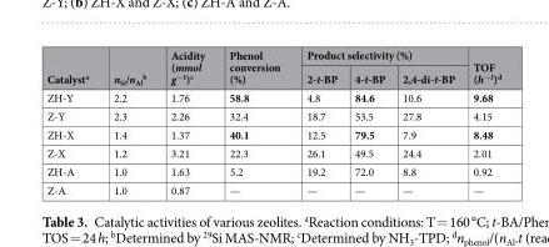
<table><thead><tr><td rowspan="2">Catalyst<sup>a</sup></td><td rowspan="2">n<sub>Si</sub>/n<sub>Al</sub> <sup>b</sup></td><td rowspan="2">Acidity (mmol g<sup>−1</sup>)<sup>c</sup></td><td rowspan="2">Phenol conversion (%)</td><td colspan="3">Product selectivity (%)</td><td rowspan="2">TOF (h<sup>−1</sup>)<sup>d</sup></td></tr><tr><td>2-t-BP</td><td>4-t-BP</td><td>2,4-di-t-BP</td></tr></thead><tbody><tr><td>ZH-Y</td><td>2.2</td><td>1.76</td><td>58.8</td><td>4.8</td><td>84.6</td><td>10.6</td><td>9.68</td></tr><tr><td>Z-Y</td><td>2.3</td><td>2.26</td><td>32.4</td><td>18.7</td><td>53.5</td><td>27.8</td><td>4.15</td></tr><tr><td>ZH-X</td><td>1.4</td><td>1.37</td><td>40.1</td><td>12.5</td><td>79.5</td><td>7.9</td><td>8.48</td></tr><tr><td>Z-X</td><td>1.2</td><td>3.21</td><td>22.3</td><td>26.1</td><td>49.5</td><td>24.4</td><td>2.01</td></tr><tr><td>ZH-A</td><td>1.0</td><td>1.63</td><td>5.2</td><td>19.2</td><td>72.0</td><td>8.8</td><td>0.92</td></tr><tr><td>Z-A</td><td>1.0</td><td>0.87</td><td>—</td><td>—</td><td>—</td><td>—</td><td>—</td></tr></tbody></table>